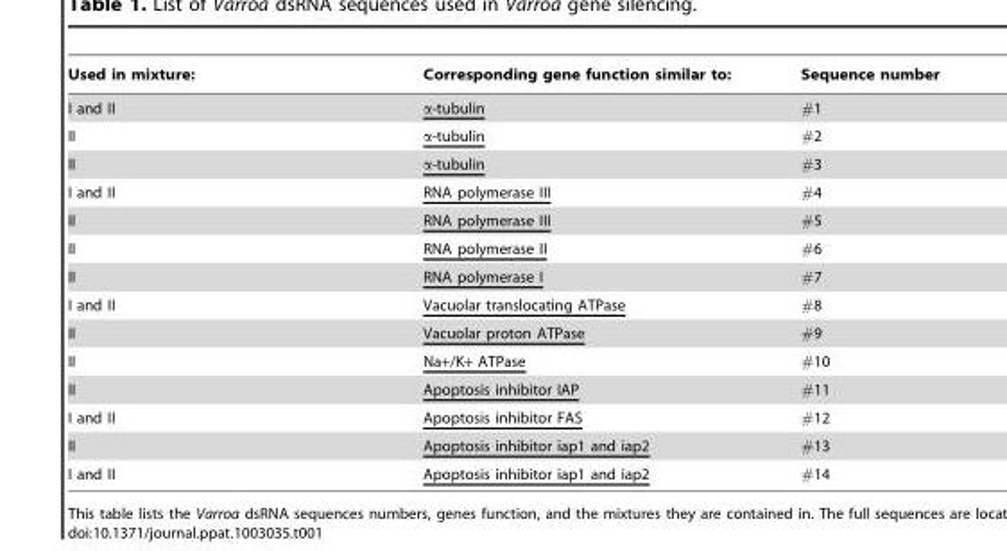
<table><thead><tr><td>Used in mixture:</td><td>Corresponding gene function similar to:</td><td>Sequence number</td></tr></thead><tbody><tr><td>I and II</td><td>α-tubulin</td><td>#1</td></tr><tr><td>II</td><td>α-tubulin</td><td>#2</td></tr><tr><td>II</td><td>α-tubulin</td><td>#3</td></tr><tr><td>I and II</td><td>RNA polymerase III</td><td>#4</td></tr><tr><td>II</td><td>RNA polymerase III</td><td>#5</td></tr><tr><td>II</td><td>RNA polymerase II</td><td>#6</td></tr><tr><td>II</td><td>RNA polymerase I</td><td>#7</td></tr><tr><td>I and II</td><td>Vacuolar translocating ATPase</td><td>#8</td></tr><tr><td>II</td><td>Vacuolar proton ATPase</td><td>#9</td></tr><tr><td>II</td><td>Na+/K+ ATPase</td><td>#10</td></tr><tr><td>II</td><td>Apoptosis inhibitor IAP</td><td>#11</td></tr><tr><td>I and II</td><td>Apoptosis inhibitor FAS</td><td>#12</td></tr><tr><td>II</td><td>Apoptosis inhibitor iap1 and iap2</td><td>#13</td></tr><tr><td>I and II</td><td>Apoptosis inhibitor iap1 and iap2</td><td>#14</td></tr></tbody></table>